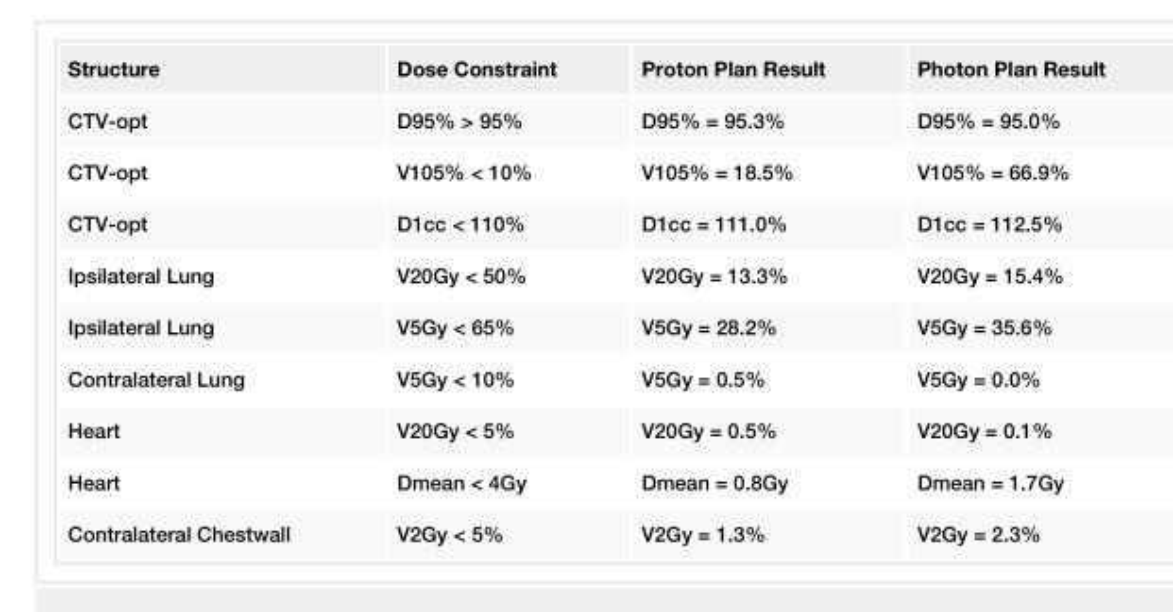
<table><tbody><tr><td>Structure</td><td>Dose Constraint</td><td>Proton Plan Result</td><td>Photon Plan Result</td></tr><tr><td>CTV-opt</td><td>D95% &gt; 95%</td><td>D95% = 95.3%</td><td>D95% = 95.0%</td></tr><tr><td>CTV-opt</td><td>V105% &lt; 10%</td><td>V105% = 18.5%</td><td>V105% = 66.9%</td></tr><tr><td>CTV-opt</td><td>D1cc &lt; 110%</td><td>D1cc = 111.0%</td><td>D1cc = 112.5%</td></tr><tr><td>Ipsilateral Lung</td><td>V20Gy &lt; 50%</td><td>V20Gy = 13.3%</td><td>V20Gy = 15.4%</td></tr><tr><td>Ipsilateral Lung</td><td>V5Gy &lt; 65%</td><td>V5Gy = 28.2%</td><td>V5Gy = 35.6%</td></tr><tr><td>Contralateral Lung</td><td>V5Gy &lt; 10%</td><td>V5Gy = 0.5%</td><td>V5Gy = 0.0%</td></tr><tr><td>Heart</td><td>V20Gy &lt; 5%</td><td>V20Gy = 0.5%</td><td>V20Gy = 0.1%</td></tr><tr><td>Heart</td><td>Dmean &lt; 4Gy</td><td>Dmean = 0.8Gy</td><td>Dmean = 1.7Gy</td></tr><tr><td>Contralateral Chestwall</td><td>V2Gy &lt; 5%</td><td>V2Gy = 1.3%</td><td>V2Gy = 2.3%</td></tr></tbody></table>